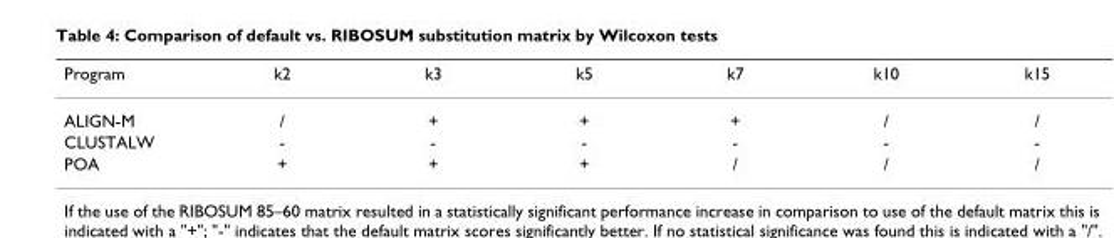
<table><thead><tr><td>Program</td><td>k2</td><td>k3</td><td>k5</td><td>k7</td><td>k10</td><td>k15</td></tr></thead><tbody><tr><td>ALIGN-M</td><td>/</td><td>+</td><td>+</td><td>+</td><td>/</td><td>/</td></tr><tr><td>CLUSTALW</td><td>-</td><td>-</td><td>-</td><td>-</td><td>-</td><td>-</td></tr><tr><td>POA</td><td>+</td><td>+</td><td>+</td><td>/</td><td>/</td><td>/</td></tr></tbody></table>